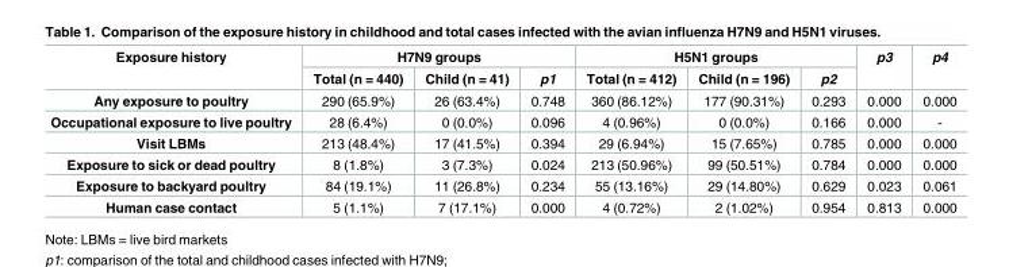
<table><thead><tr><td rowspan="2">Exposure history</td><td colspan="3">H7N9 groups</td><td colspan="3">H5N1 groups</td><td rowspan="2">p3</td><td rowspan="2">p4</td></tr><tr><td>Total (n = 440)</td><td>Child (n = 41)</td><td>p1</td><td>Total (n = 412)</td><td>Child (n = 196)</td><td>p2</td></tr></thead><tbody><tr><td>Any exposure to poultry</td><td>290 (65.9%)</td><td>26 (63.4%)</td><td>0.748</td><td>360 (86.12%)</td><td>177 (90.31%)</td><td>0.293</td><td>0.000</td><td>0.000</td></tr><tr><td>Occupational exposure to live poultry</td><td>28 (6.4%)</td><td>0 (0.0%)</td><td>0.096</td><td>4 (0.96%)</td><td>0 (0.0%)</td><td>0.166</td><td>0.000</td><td>-</td></tr><tr><td>Visit LBMs</td><td>213 (48.4%)</td><td>17 (41.5%)</td><td>0.394</td><td>29 (6.94%)</td><td>15 (7.65%)</td><td>0.785</td><td>0.000</td><td>0.000</td></tr><tr><td>Exposure to sick or dead poultry</td><td>8 (1.8%)</td><td>3 (7.3%)</td><td>0.024</td><td>213 (50.96%)</td><td>99 (50.51%)</td><td>0.784</td><td>0.000</td><td>0.000</td></tr><tr><td>Exposure to backyard poultry</td><td>84 (19.1%)</td><td>11 (26.8%)</td><td>0.234</td><td>55 (13.16%)</td><td>29 (14.80%)</td><td>0.629</td><td>0.023</td><td>0.061</td></tr><tr><td>Human case contact</td><td>5 (1.1%)</td><td>7 (17.1%)</td><td>0.000</td><td>4 (0.72%)</td><td>2 (1.02%)</td><td>0.954</td><td>0.813</td><td>0.000</td></tr></tbody></table>